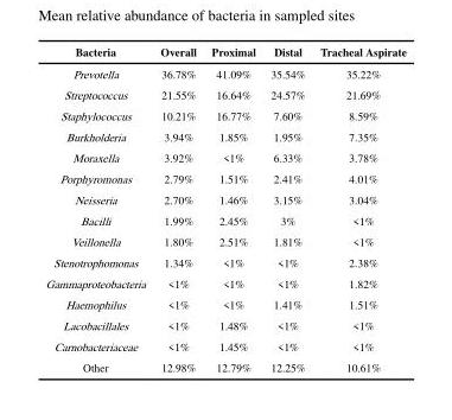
<table><thead><tr><td>Bacteria</td><td>Overall</td><td>Proximal</td><td>Distal</td><td>Tracheal Aspirate</td></tr></thead><tbody><tr><td>Prevotella</td><td>36.78%</td><td>41.09%</td><td>35.54%</td><td>35.22%</td></tr><tr><td>Streptococcus</td><td>21.55%</td><td>16.64%</td><td>24.57%</td><td>21.69%</td></tr><tr><td>Staphylococcus</td><td>10.21%</td><td>16.77%</td><td>7.60%</td><td>8.59%</td></tr><tr><td>Burkholderia</td><td>3.94%</td><td>1.85%</td><td>1.95%</td><td>7.35%</td></tr><tr><td>Moraxella</td><td>3.92%</td><td>&lt;1%</td><td>6.33%</td><td>3.78%</td></tr><tr><td>Porphyromonas</td><td>2.79%</td><td>1.51%</td><td>2.41%</td><td>4.01%</td></tr><tr><td>Neisseria</td><td>2.70%</td><td>1.46%</td><td>3.15%</td><td>3.04%</td></tr><tr><td>Bacilli</td><td>1.99%</td><td>2.45%</td><td>3%</td><td>&lt;1%</td></tr><tr><td>Veillonella</td><td>1.80%</td><td>2.51%</td><td>1.81%</td><td>&lt;1%</td></tr><tr><td>Stenotrophomonas</td><td>1.34%</td><td>&lt;1%</td><td>&lt;1%</td><td>2.38%</td></tr><tr><td>Gammaproteobacteria</td><td>&lt;1%</td><td>&lt;1%</td><td>&lt;1%</td><td>1.82%</td></tr><tr><td>Haemophilus</td><td>&lt;1%</td><td>&lt;1%</td><td>1.41%</td><td>1.51%</td></tr><tr><td>Lacobacillales</td><td>&lt;1%</td><td>1.48%</td><td>&lt;1%</td><td>&lt;1%</td></tr><tr><td>Carnobacteriaceae</td><td>&lt;1%</td><td>1.45%</td><td>&lt;1%</td><td>&lt;1%</td></tr><tr><td>Other</td><td>12.98%</td><td>12.79%</td><td>12.25%</td><td>10.61%</td></tr></tbody></table>